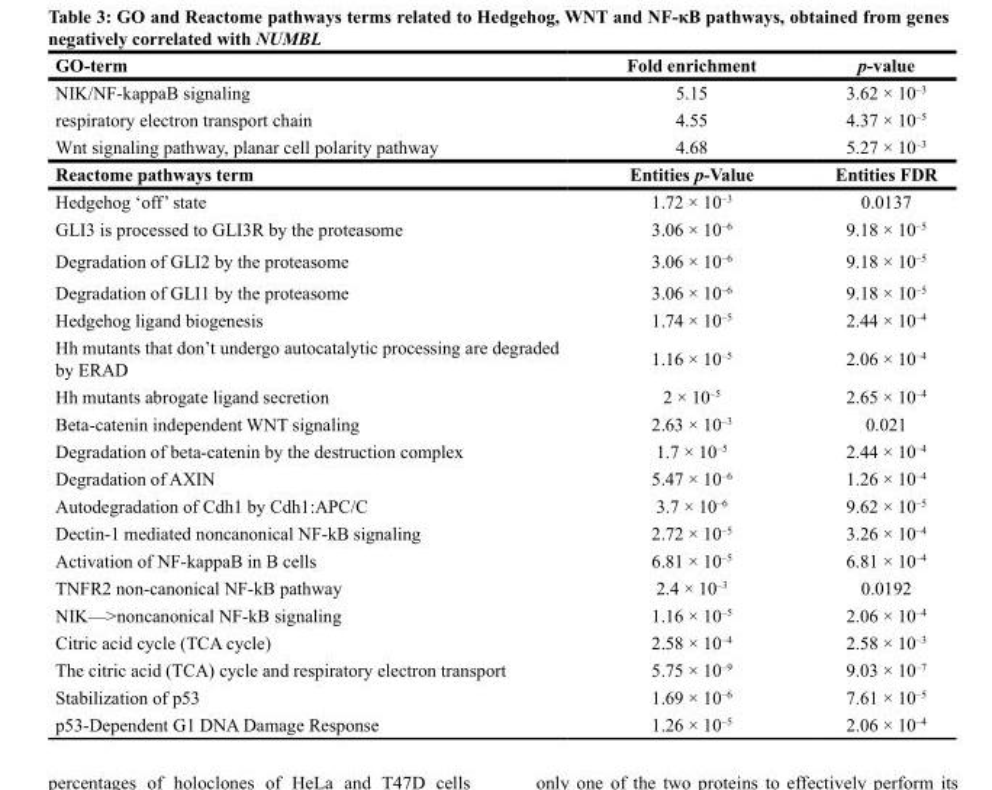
<table><thead><tr><td>GO-term</td><td>Fold enrichment</td><td>p-value</td></tr></thead><tbody><tr><td>NIK/NF-kappaB signaling</td><td>5.15</td><td>3.62 × 10<sup>–3</sup></td></tr><tr><td>respiratory electron transport chain</td><td>4.55</td><td>4.37 × 10<sup>–5</sup></td></tr><tr><td>Wnt signaling pathway, planar cell polarity pathway</td><td>4.68</td><td>5.27 × 10<sup>–3</sup></td></tr><tr><td>Reactome pathways term</td><td>Entities p-Value</td><td>Entities FDR</td></tr><tr><td>Hedgehog ‘off’ state</td><td>1.72 × 10<sup>–3</sup></td><td>0.0137</td></tr><tr><td>GLI3 is processed to GLI3R by the proteasome</td><td>3.06 × 10<sup>–6</sup></td><td>9.18 × 10<sup>–5</sup></td></tr><tr><td>Degradation of GLI2 by the proteasome</td><td>3.06 × 10<sup>–6</sup></td><td>9.18 × 10<sup>–5</sup></td></tr><tr><td>Degradation of GLI1 by the proteasome</td><td>3.06 × 10<sup>–6</sup></td><td>9.18 × 10<sup>–5</sup></td></tr><tr><td>Hedgehog ligand biogenesis</td><td>1.74 × 10<sup>–5</sup></td><td>2.44 × 10<sup>–4</sup></td></tr><tr><td>Hh mutants that don’t undergo autocatalytic processing are degraded by ERAD</td><td>1.16 × 10<sup>–5</sup></td><td>2.06 × 10<sup>–4</sup></td></tr><tr><td>Hh mutants abrogate ligand secretion</td><td>2 × 10<sup>–5</sup></td><td>2.65 × 10<sup>–4</sup></td></tr><tr><td>Beta-catenin independent WNT signaling</td><td>2.63 × 10<sup>–3</sup></td><td>0.021</td></tr><tr><td>Degradation of beta-catenin by the destruction complex</td><td>1.7 × 10<sup>–5</sup></td><td>2.44 × 10<sup>–4</sup></td></tr><tr><td>Degradation of AXIN</td><td>5.47 × 10<sup>–6</sup></td><td>1.26 × 10<sup>–4</sup></td></tr><tr><td>Autodegradation of Cdh1 by Cdh1:APC/C</td><td>3.7 × 10<sup>–6</sup></td><td>9.62 × 10<sup>–5</sup></td></tr><tr><td>Dectin-1 mediated noncanonical NF-kB signaling</td><td>2.72 × 10<sup>–5</sup></td><td>3.26 × 10<sup>–4</sup></td></tr><tr><td>Activation of NF-kappaB in B cells</td><td>6.81 × 10<sup>–5</sup></td><td>6.81 × 10<sup>–4</sup></td></tr><tr><td>TNFR2 non-canonical NF-kB pathway</td><td>2.4 × 10<sup>–3</sup></td><td>0.0192</td></tr><tr><td>NIK––&gt;noncanonical NF-kB signaling</td><td>1.16 × 10<sup>–5</sup></td><td>2.06 × 10<sup>–4</sup></td></tr><tr><td>Citric acid cycle (TCA cycle)</td><td>2.58 × 10<sup>–4</sup></td><td>2.58 × 10<sup>–3</sup></td></tr><tr><td>The citric acid (TCA) cycle and respiratory electron transport</td><td>5.75 × 10<sup>–9</sup></td><td>9.03 × 10<sup>–7</sup></td></tr><tr><td>Stabilization of p53</td><td>1.69 × 10<sup>–6</sup></td><td>7.61 × 10<sup>–5</sup></td></tr><tr><td>p53-Dependent G1 DNA Damage Response</td><td>1.26 × 10<sup>–5</sup></td><td>2.06 × 10<sup>–4</sup></td></tr></tbody></table>